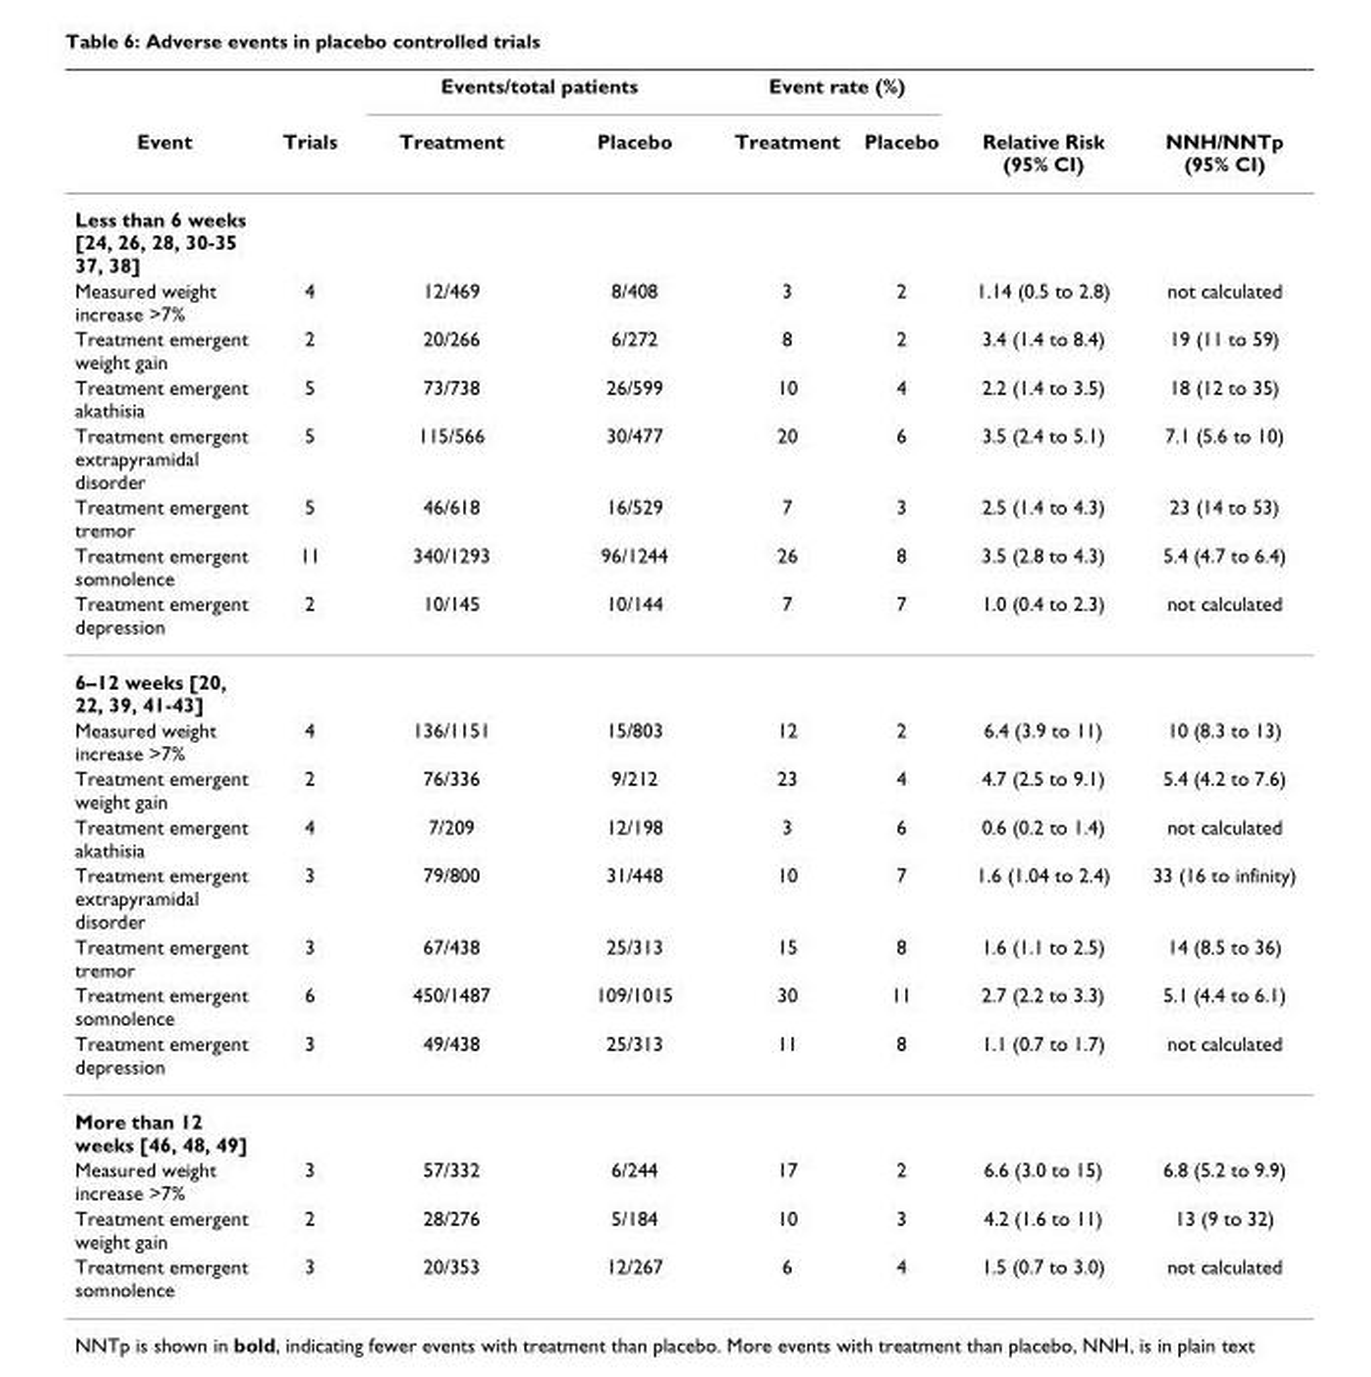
<table><thead><tr><td rowspan="2">Event</td><td rowspan="2">Trials</td><td colspan="2">Events/total patients</td><td colspan="2">Event rate (%)</td><td rowspan="2">Relative Risk (95% CI)</td><td rowspan="2">NNH/NNTp (95% CI)</td></tr><tr><td>Treatment</td><td>Placebo</td><td>Treatment</td><td>Placebo</td></tr></thead><tbody><tr><td colspan="8">Less than 6 weeks [24, 26, 28, 30-35 37, 38]</td></tr><tr><td>Measured weight increase &gt;7%</td><td>4</td><td>12/469</td><td>8/408</td><td>3</td><td>2</td><td>1.14 (0.5 to 2.8)</td><td>not calculated</td></tr><tr><td>Treatment emergent weight gain</td><td>2</td><td>20/266</td><td>6/272</td><td>8</td><td>2</td><td>3.4 (1.4 to 8.4)</td><td>19 (11 to 59)</td></tr><tr><td>Treatment emergent akathisia</td><td>5</td><td>73/738</td><td>26/599</td><td>10</td><td>4</td><td>2.2 (1.4 to 3.5)</td><td>18 (12 to 35)</td></tr><tr><td>Treatment emergent extrapyramidal disorder</td><td>5</td><td>115/566</td><td>30/477</td><td>20</td><td>6</td><td>3.5 (2.4 to 5.1)</td><td>7.1 (5.6 to 10)</td></tr><tr><td>Treatment emergent tremor</td><td>5</td><td>46/618</td><td>16/529</td><td>7</td><td>3</td><td>2.5 (1.4 to 4.3)</td><td>23 (14 to 53)</td></tr><tr><td>Treatment emergent somnolence</td><td>11</td><td>340/1293</td><td>96/1244</td><td>26</td><td>8</td><td>3.5 (2.8 to 4.3)</td><td>5.4 (4.7 to 6.4)</td></tr><tr><td>Treatment emergent depression</td><td>2</td><td>10/145</td><td>10/144</td><td>7</td><td>7</td><td>1.0 (0.4 to 2.3)</td><td>not calculated</td></tr><tr><td colspan="8">6–12 weeks [20, 22, 39, 41-43]</td></tr><tr><td>Measured weight increase &gt;7%</td><td>4</td><td>136/1151</td><td>15/803</td><td>12</td><td>2</td><td>6.4 (3.9 to 11)</td><td>10 (8.3 to 13)</td></tr><tr><td>Treatment emergent weight gain</td><td>2</td><td>76/336</td><td>9/212</td><td>23</td><td>4</td><td>4.7 (2.5 to 9.1)</td><td>5.4 (4.2 to 7.6)</td></tr><tr><td>Treatment emergent akathisia</td><td>4</td><td>7/209</td><td>12/198</td><td>3</td><td>6</td><td>0.6 (0.2 to 1.4)</td><td>not calculated</td></tr><tr><td>Treatment emergent extrapyramidal disorder</td><td>3</td><td>79/800</td><td>31/448</td><td>10</td><td>7</td><td>1.6 (1.04 to 2.4)</td><td>33 (16 to infinity)</td></tr><tr><td>Treatment emergent tremor</td><td>3</td><td>67/438</td><td>25/313</td><td>15</td><td>8</td><td>1.6 (1.1 to 2.5)</td><td>14 (8.5 to 36)</td></tr><tr><td>Treatment emergent somnolence</td><td>6</td><td>450/1487</td><td>109/1015</td><td>30</td><td>11</td><td>2.7 (2.2 to 3.3)</td><td>5.1 (4.4 to 6.1)</td></tr><tr><td>Treatment emergent depression</td><td>3</td><td>49/438</td><td>25/313</td><td>11</td><td>8</td><td>1.1 (0.7 to 1.7)</td><td>not calculated</td></tr><tr><td colspan="8">More than 12 weeks [46, 48, 49]</td></tr><tr><td>Measured weight increase &gt;7%</td><td>3</td><td>57/332</td><td>6/244</td><td>17</td><td>2</td><td>6.6 (3.0 to 15)</td><td>6.8 (5.2 to 9.9)</td></tr><tr><td>Treatment emergent weight gain</td><td>2</td><td>28/276</td><td>5/184</td><td>10</td><td>3</td><td>4.2 (1.6 to 11)</td><td>13 (9 to 32)</td></tr><tr><td>Treatment emergent somnolence</td><td>3</td><td>20/353</td><td>12/267</td><td>6</td><td>4</td><td>1.5 (0.7 to 3.0)</td><td>not calculated</td></tr></tbody></table>